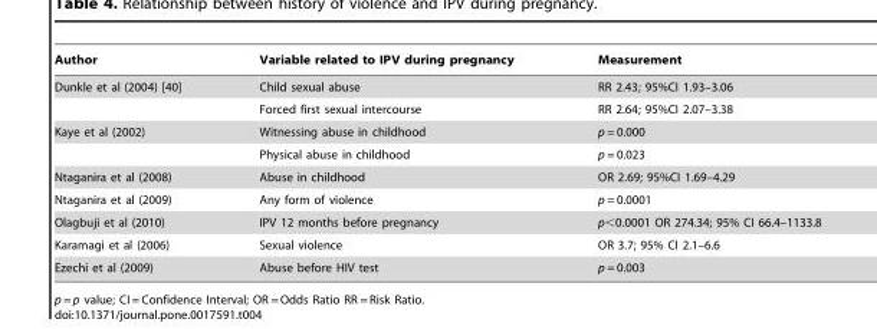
<table><thead><tr><td>Author</td><td>Variable related to IPV during pregnancy</td><td>Measurement</td></tr></thead><tbody><tr><td rowspan="2">Dunkle et al (2004) [40]</td><td>Child sexual abuse</td><td>RR 2.43; 95%CI 1.93–3.06</td></tr><tr><td>Forced first sexual intercourse</td><td>RR 2.64; 95%CI 2.07–3.38</td></tr><tr><td rowspan="2">Kaye et al (2002)</td><td>Witnessing abuse in childhood</td><td>p = 0.000</td></tr><tr><td>Physical abuse in childhood</td><td>p = 0.023</td></tr><tr><td>Ntaganira et al (2008)</td><td>Abuse in childhood</td><td>OR 2.69; 95%CI 1.69–4.29</td></tr><tr><td>Ntaganira et al (2009)</td><td>Any form of violence</td><td>p = 0.0001</td></tr><tr><td>Olagbuji et al (2010)</td><td>IPV 12 months before pregnancy</td><td>p&lt;0.0001 OR 274.34; 95% CI 66.4–1133.8</td></tr><tr><td>Karamagi et al (2006)</td><td>Sexual violence</td><td>OR 3.7; 95% CI 2.1–6.6</td></tr><tr><td>Ezechi et al (2009)</td><td>Abuse before HIV test</td><td>p = 0.003</td></tr></tbody></table>